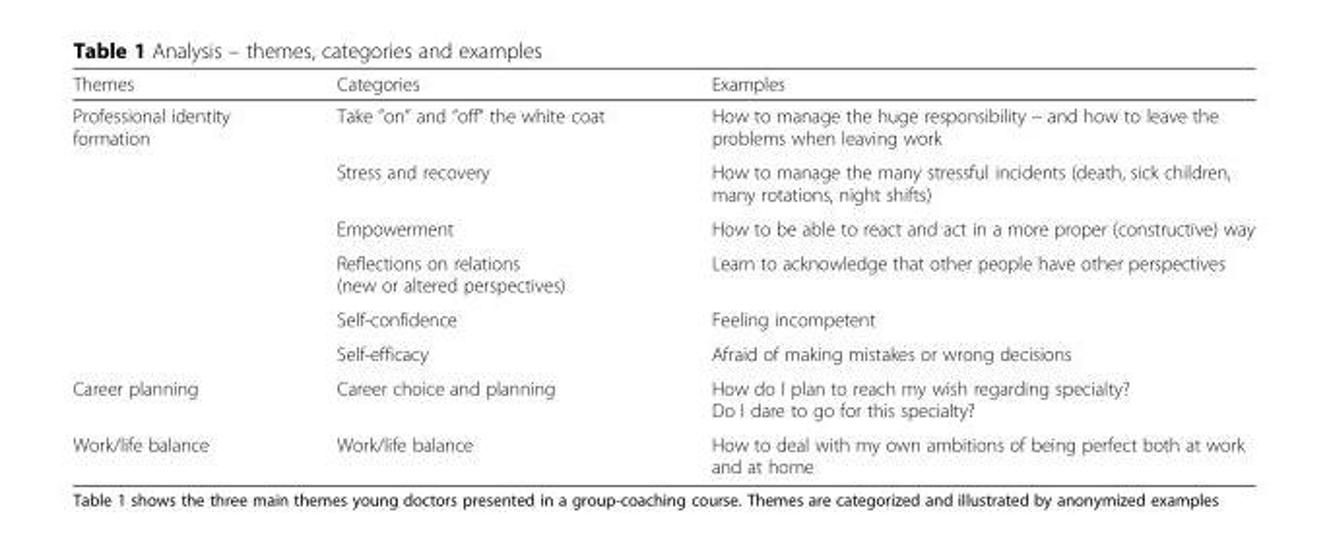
<table><thead><tr><td>Themes</td><td>Categories</td><td>Examples</td></tr></thead><tbody><tr><td rowspan="6">Professional identity formation</td><td>Take ”on” and “off” the white coat</td><td>How to manage the huge responsibility – and how to leave the problems when leaving work</td></tr><tr><td>Stress and recovery</td><td>How to manage the many stressful incidents (death, sick children, many rotations, night shifts)</td></tr><tr><td>Empowerment</td><td>How to be able to react and act in a more proper (constructive) way</td></tr><tr><td>Reflections on relations (new or altered perspectives)</td><td>Learn to acknowledge that other people have other perspectives</td></tr><tr><td>Self-confidence</td><td>Feeling incompetent</td></tr><tr><td>Self-efficacy</td><td>Afraid of making mistakes or wrong decisions</td></tr><tr><td>Career planning</td><td>Career choice and planning</td><td>How do I plan to reach my wish regarding specialty? Do I dare to go for this specialty?</td></tr><tr><td>Work/life balance</td><td>Work/life balance</td><td>How to deal with my own ambitions of being perfect both at work and at home</td></tr></tbody></table>